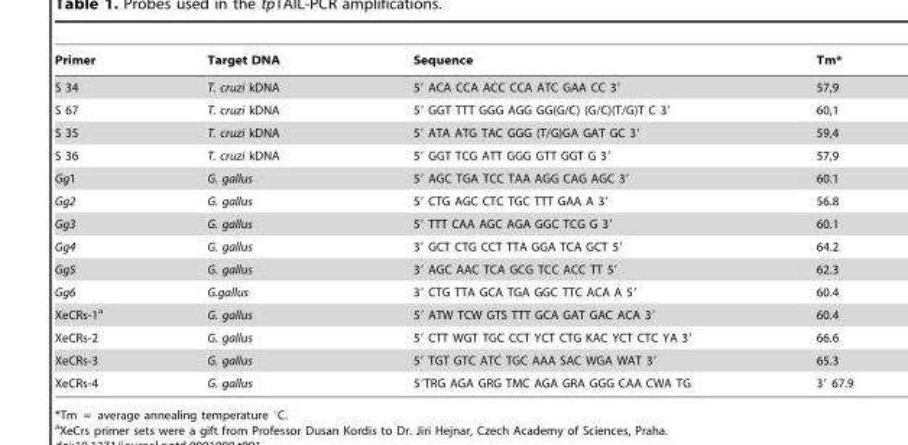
<table><thead><tr><td>Primer</td><td>Target DNA</td><td>Sequence</td><td>Tm*</td></tr></thead><tbody><tr><td>S 34</td><td>T. cruzi kDNA</td><td>5′ ACA CCA ACC CCA ATC GAA CC 3′</td><td>57,9</td></tr><tr><td>S 67</td><td>T. cruzi kDNA</td><td>5′ GGT TTT GGG AGG GG(G/C) (G/C)(T/G)T C 3′</td><td>60,1</td></tr><tr><td>S 35</td><td>T. cruzi kDNA</td><td>5′ ATA ATG TAC GGG (T/G)GA GAT GC 3′</td><td>59,4</td></tr><tr><td>S 36</td><td>T. cruzi kDNA</td><td>5′ GGT TCG ATT GGG GTT GGT G 3′</td><td>57,9</td></tr><tr><td>Gg1</td><td>G. gallus</td><td>5′ AGC TGA TCC TAA AGG CAG AGC 3′</td><td>60.1</td></tr><tr><td>Gg2</td><td>G. gallus</td><td>5′ CTG AGC CTC TGC TTT GAA A 3′</td><td>56.8</td></tr><tr><td>Gg3</td><td>G. gallus</td><td>5′ TTT CAA AGC AGA GGC TCG G 3′</td><td>60.1</td></tr><tr><td>Gg4</td><td>G. gallus</td><td>3′ GCT CTG CCT TTA GGA TCA GCT 5′</td><td>64.2</td></tr><tr><td>Gg5</td><td>G. gallus</td><td>3′ AGC AAC TCA GCG TCC ACC TT 5′</td><td>62.3</td></tr><tr><td>Gg6</td><td>G.gallus</td><td>3′ CTG TTA GCA TGA GGC TTC ACA A 5′</td><td>60.4</td></tr><tr><td>XeCRs-1<sup>a</sup></td><td>G. gallus</td><td>5′ ATW TCW GTS TTT GCA GAT GAC ACA 3′</td><td>60.4</td></tr><tr><td>XeCRs-2</td><td>G. gallus</td><td>5′ CTT WGT TGC CCT YCT CTG KAC YCT CTC YA 3′</td><td>66.6</td></tr><tr><td>XeCRs-3</td><td>G. gallus</td><td>5′ TGT GTC ATC TGC AAA SAC WGA WAT 3′</td><td>65.3</td></tr><tr><td>XeCRs-4</td><td>G. gallus</td><td>5′TRG AGA GRG TMC AGA GRA GGG CAA CWA TG</td><td>3′ 67.9</td></tr></tbody></table>